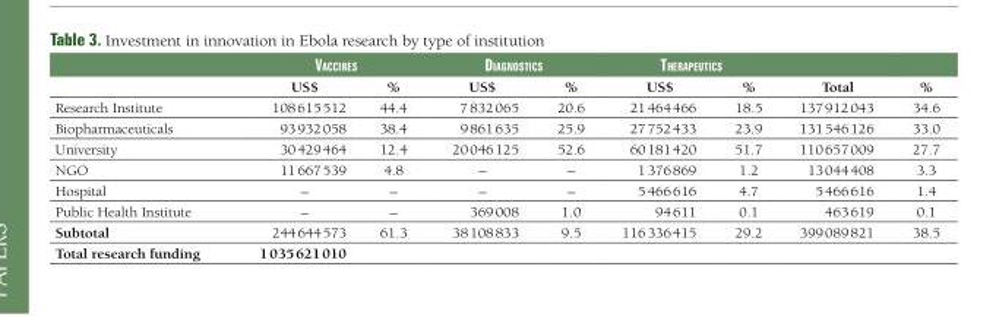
<table><thead><tr><td rowspan="2"></td><td colspan="2">vaccineS</td><td colspan="2">diagnoSTicS</td><td colspan="2">TherapeuTicS</td><td rowspan="2">Total</td><td rowspan="2">%</td></tr><tr><td>US$</td><td>%</td><td>US$</td><td>%</td><td>US$</td><td>%</td></tr></thead><tbody><tr><td>Research Institute</td><td>108 615 512</td><td>44.4</td><td>7 832 065</td><td>20.6</td><td>21 464 466</td><td>18.5</td><td>137 912 043</td><td>34.6</td></tr><tr><td>Biopharmaceuticals</td><td>93 932 058</td><td>38.4</td><td>9 861 635</td><td>25.9</td><td>27 752 433</td><td>23.9</td><td>131 546 126</td><td>33.0</td></tr><tr><td>University</td><td>30 429 464</td><td>12.4</td><td>20 046 125</td><td>52.6</td><td>60 181 420</td><td>51.7</td><td>110 657 009</td><td>27.7</td></tr><tr><td>NGO</td><td>11 667 539</td><td>4.8</td><td>–</td><td>–</td><td>1 376 869</td><td>1.2</td><td>13 044 408</td><td>3.3</td></tr><tr><td>Hospital</td><td>–</td><td>–</td><td>–</td><td>–</td><td>5 466 616</td><td>4.7</td><td>5 466 616</td><td>1.4</td></tr><tr><td>Public Health Institute</td><td>–</td><td>–</td><td>369 008</td><td>1.0</td><td>94 611</td><td>0.1</td><td>463 619</td><td>0.1</td></tr><tr><td>Subtotal</td><td>244 644 573</td><td>61.3</td><td>38 108 833</td><td>9.5</td><td>116 336 415</td><td>29.2</td><td>399 089 821</td><td>38.5</td></tr><tr><td>Total research funding</td><td>1 035 621 010</td><td></td><td></td><td></td><td></td><td></td><td></td><td></td></tr></tbody></table>